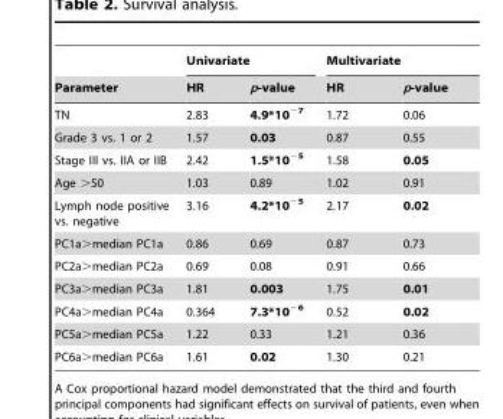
<table><thead><tr><td rowspan="2">Parameter</td><td colspan="2">Univariate</td><td colspan="2">Multivariate</td></tr><tr><td>HR</td><td>p-value</td><td>HR</td><td>p-value</td></tr></thead><tbody><tr><td>TN</td><td>2.83</td><td>4.9*10<sup>−7</sup></td><td>1.72</td><td>0.06</td></tr><tr><td>Grade 3 vs. 1 or 2</td><td>1.57</td><td>0.03</td><td>0.87</td><td>0.55</td></tr><tr><td>Stage III vs. IIA or IIB</td><td>2.42</td><td>1.5*10<sup>−5</sup></td><td>1.58</td><td>0.05</td></tr><tr><td>Age &gt;50</td><td>1.03</td><td>0.89</td><td>1.02</td><td>0.91</td></tr><tr><td>Lymph node positive vs. negative</td><td>3.16</td><td>4.2*10<sup>−5</sup></td><td>2.17</td><td>0.02</td></tr><tr><td>PC1a&gt;median PC1a</td><td>0.86</td><td>0.69</td><td>0.87</td><td>0.73</td></tr><tr><td>PC2a&gt;median PC2a</td><td>0.69</td><td>0.08</td><td>0.91</td><td>0.66</td></tr><tr><td>PC3a&gt;median PC3a</td><td>1.81</td><td>0.003</td><td>1.75</td><td>0.01</td></tr><tr><td>PC4a&gt;median PC4a</td><td>0.364</td><td>7.3*10<sup>−6</sup></td><td>0.52</td><td>0.02</td></tr><tr><td>PC5a&gt;median PC5a</td><td>1.22</td><td>0.33</td><td>1.21</td><td>0.36</td></tr><tr><td>PC6a&gt;median PC6a</td><td>1.61</td><td>0.02</td><td>1.30</td><td>0.21</td></tr></tbody></table>